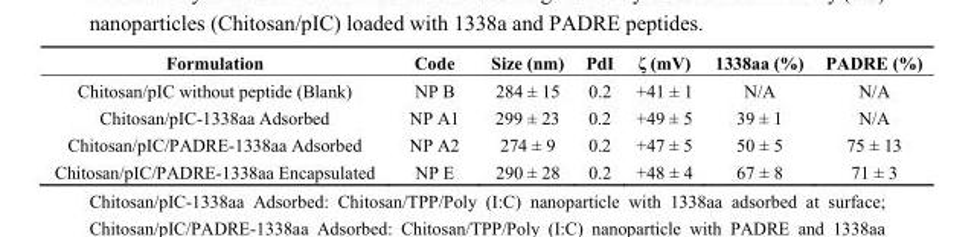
<table><thead><tr><td>Formulation</td><td>Code</td><td>Size (nm)</td><td>PdI</td><td>ζ (mV)</td><td>1338aa (%)</td><td>PADRE (%)</td></tr></thead><tbody><tr><td>Chitosan/pIC without peptide (Blank)</td><td>NP B</td><td>284 ± 15</td><td>0.2</td><td>+41 ± 1</td><td>N/A</td><td>N/A</td></tr><tr><td>Chitosan/pIC-1338aa Adsorbed</td><td>NP A1</td><td>299 ± 23</td><td>0.2</td><td>+49 ± 5</td><td>39 ± 1</td><td>N/A</td></tr><tr><td>Chitosan/pIC/PADRE-1338aa Adsorbed</td><td>NP A2</td><td>274 ± 9</td><td>0.2</td><td>+47 ± 5</td><td>50 ± 5</td><td>75 ± 13</td></tr><tr><td>Chitosan/pIC/PADRE-1338aa Encapsulated</td><td>NP E</td><td>290 ± 28</td><td>0.2</td><td>+48 ± 4</td><td>67 ± 8</td><td>71 ± 3</td></tr></tbody></table>